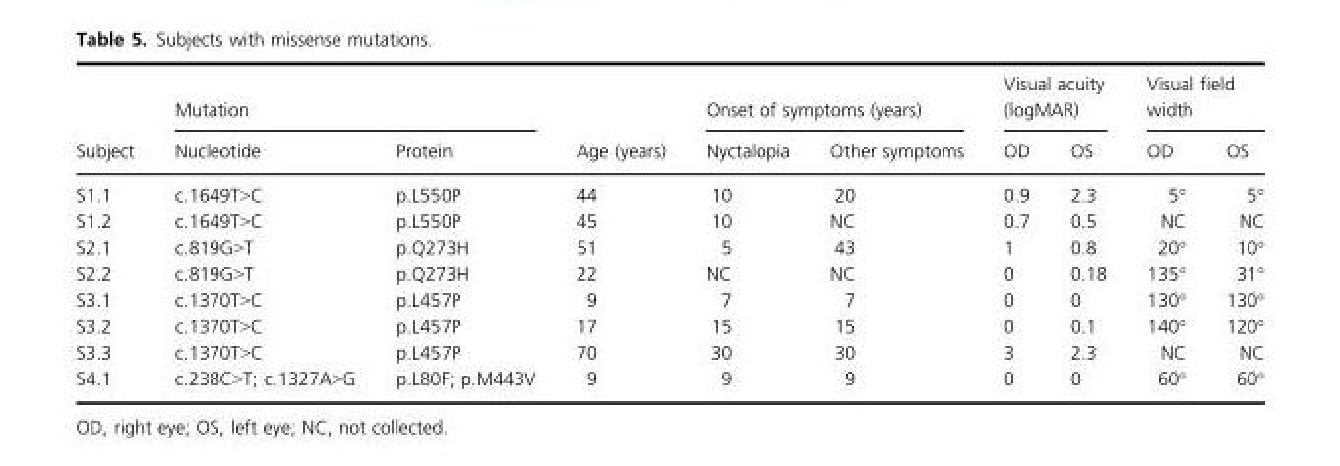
<table><thead><tr><td rowspan="2">Subject</td><td colspan="2">Mutation</td><td rowspan="2">Age (years)</td><td colspan="2">Onset of symptoms (years)</td><td colspan="2">Visual acuity (logMAR)</td><td colspan="2">Visual field width</td></tr><tr><td>Nucleotide</td><td>Protein</td><td>Nyctalopia</td><td>Other symptoms</td><td>OD</td><td>OS</td><td>OD</td><td>OS</td></tr></thead><tbody><tr><td>S1.1</td><td>c.1649T&gt;C</td><td>p.L550P</td><td>44</td><td>10</td><td>20</td><td>0.9</td><td>2.3</td><td>5°</td><td>5°</td></tr><tr><td>S1.2</td><td>c.1649T&gt;C</td><td>p.L550P</td><td>45</td><td>10</td><td>NC</td><td>0.7</td><td>0.5</td><td>NC</td><td>NC</td></tr><tr><td>S2.1</td><td>c.819G&gt;T</td><td>p.Q273H</td><td>51</td><td>5</td><td>43</td><td>1</td><td>0.8</td><td>20°</td><td>10°</td></tr><tr><td>S2.2</td><td>c.819G&gt;T</td><td>p.Q273H</td><td>22</td><td>NC</td><td>NC</td><td>0</td><td>0.18</td><td>135°</td><td>31°</td></tr><tr><td>S3.1</td><td>c.1370T&gt;C</td><td>p.L457P</td><td>9</td><td>7</td><td>7</td><td>0</td><td>0</td><td>130°</td><td>130°</td></tr><tr><td>S3.2</td><td>c.1370T&gt;C</td><td>p.L457P</td><td>17</td><td>15</td><td>15</td><td>0</td><td>0.1</td><td>140°</td><td>120°</td></tr><tr><td>S3.3</td><td>c.1370T&gt;C</td><td>p.L457P</td><td>70</td><td>30</td><td>30</td><td>3</td><td>2.3</td><td>NC</td><td>NC</td></tr><tr><td>S4.1</td><td>c.238C&gt;T; c.1327A&gt;G</td><td>p.L80F; p.M443V</td><td>9</td><td>9</td><td>9</td><td>0</td><td>0</td><td>60°</td><td>60°</td></tr></tbody></table>